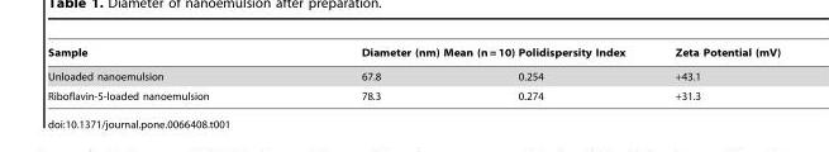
<table><thead><tr><td>Sample</td><td>Diameter (nm) Mean (n = 10)</td><td>Polidispersity Index</td><td>Zeta Potential (mV)</td></tr></thead><tbody><tr><td>Unloaded nanoemulsion</td><td>67.8</td><td>0.254</td><td>+43.1</td></tr><tr><td>Riboflavin-5-loaded nanoemulsion</td><td>78.3</td><td>0.274</td><td>+31.3</td></tr></tbody></table>